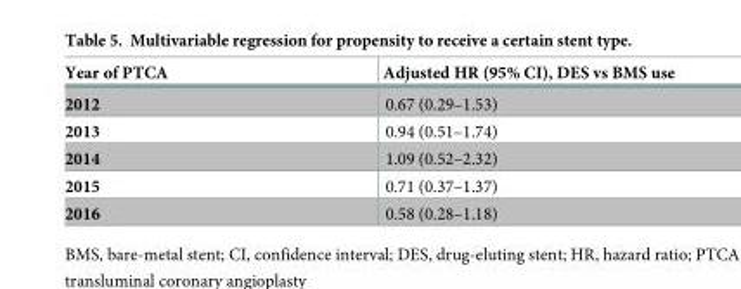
<table><thead><tr><td>Year of PTCA</td><td>Adjusted HR (95% CI), DES vs BMS use</td></tr></thead><tbody><tr><td>2012</td><td>0.67 (0.29–1.53)</td></tr><tr><td>2013</td><td>0.94 (0.51–1.74)</td></tr><tr><td>2014</td><td>1.09 (0.52–2.32)</td></tr><tr><td>2015</td><td>0.71 (0.37–1.37)</td></tr><tr><td>2016</td><td>0.58 (0.28–1.18)</td></tr></tbody></table>